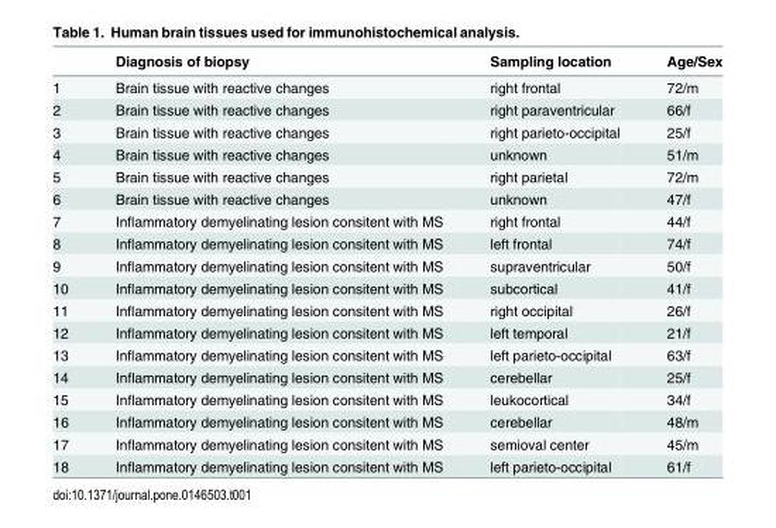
<table><thead><tr><td></td><td>Diagnosis of biopsy</td><td>Sampling location</td><td>Age/Sex</td></tr></thead><tbody><tr><td>1</td><td>Brain tissue with reactive changes</td><td>right frontal</td><td>72/m</td></tr><tr><td>2</td><td>Brain tissue with reactive changes</td><td>right paraventricular</td><td>66/f</td></tr><tr><td>3</td><td>Brain tissue with reactive changes</td><td>right parieto-occipital</td><td>25/f</td></tr><tr><td>4</td><td>Brain tissue with reactive changes</td><td>unknown</td><td>51/m</td></tr><tr><td>5</td><td>Brain tissue with reactive changes</td><td>right parietal</td><td>72/m</td></tr><tr><td>6</td><td>Brain tissue with reactive changes</td><td>unknown</td><td>47/f</td></tr><tr><td>7</td><td>Inflammatory demyelinating lesion consitent with MS</td><td>right frontal</td><td>44/f</td></tr><tr><td>8</td><td>Inflammatory demyelinating lesion consitent with MS</td><td>left frontal</td><td>74/f</td></tr><tr><td>9</td><td>Inflammatory demyelinating lesion consitent with MS</td><td>supraventricular</td><td>50/f</td></tr><tr><td>10</td><td>Inflammatory demyelinating lesion consitent with MS</td><td>subcortical</td><td>41/f</td></tr><tr><td>11</td><td>Inflammatory demyelinating lesion consitent with MS</td><td>right occipital</td><td>26/f</td></tr><tr><td>12</td><td>Inflammatory demyelinating lesion consitent with MS</td><td>left temporal</td><td>21/f</td></tr><tr><td>13</td><td>Inflammatory demyelinating lesion consitent with MS</td><td>left parieto-occipital</td><td>63/f</td></tr><tr><td>14</td><td>Inflammatory demyelinating lesion consitent with MS</td><td>cerebellar</td><td>25/f</td></tr><tr><td>15</td><td>Inflammatory demyelinating lesion consitent with MS</td><td>leukocortical</td><td>34/f</td></tr><tr><td>16</td><td>Inflammatory demyelinating lesion consitent with MS</td><td>cerebellar</td><td>48/m</td></tr><tr><td>17</td><td>Inflammatory demyelinating lesion consitent with MS</td><td>semioval center</td><td>45/m</td></tr><tr><td>18</td><td>Inflammatory demyelinating lesion consitent with MS</td><td>left parieto-occipital</td><td>61/f</td></tr></tbody></table>